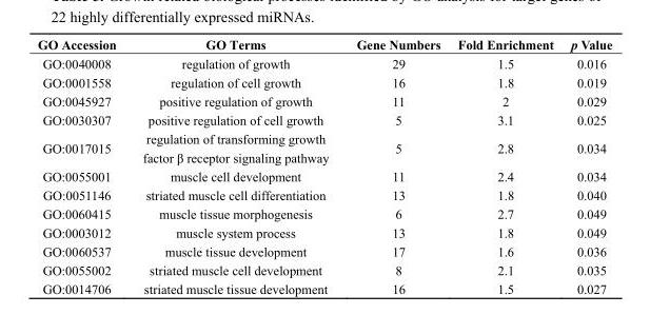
<table><thead><tr><td>GO Accession</td><td>GO Terms</td><td>Gene Numbers</td><td>Fold Enrichment</td><td>p Value</td></tr></thead><tbody><tr><td>GO:0040008</td><td>regulation of growth</td><td>29</td><td>1.5</td><td>0.016</td></tr><tr><td>GO:0001558</td><td>regulation of cell growth</td><td>16</td><td>1.8</td><td>0.019</td></tr><tr><td>GO:0045927</td><td>positive regulation of growth</td><td>11</td><td>2</td><td>0.029</td></tr><tr><td>GO:0030307</td><td>positive regulation of cell growth</td><td>5</td><td>3.1</td><td>0.025</td></tr><tr><td>GO:0017015</td><td>regulation of transforming growth factor β receptor signaling pathway</td><td>5</td><td>2.8</td><td>0.034</td></tr><tr><td>GO:0055001</td><td>muscle cell development</td><td>11</td><td>2.4</td><td>0.034</td></tr><tr><td>GO:0051146</td><td>striated muscle cell differentiation</td><td>13</td><td>1.8</td><td>0.040</td></tr><tr><td>GO:0060415</td><td>muscle tissue morphogenesis</td><td>6</td><td>2.7</td><td>0.049</td></tr><tr><td>GO:0003012</td><td>muscle system process</td><td>13</td><td>1.8</td><td>0.049</td></tr><tr><td>GO:0060537</td><td>muscle tissue development</td><td>17</td><td>1.6</td><td>0.036</td></tr><tr><td>GO:0055002</td><td>striated muscle cell development</td><td>8</td><td>2.1</td><td>0.035</td></tr><tr><td>GO:0014706</td><td>striated muscle tissue development</td><td>16</td><td>1.5</td><td>0.027</td></tr></tbody></table>